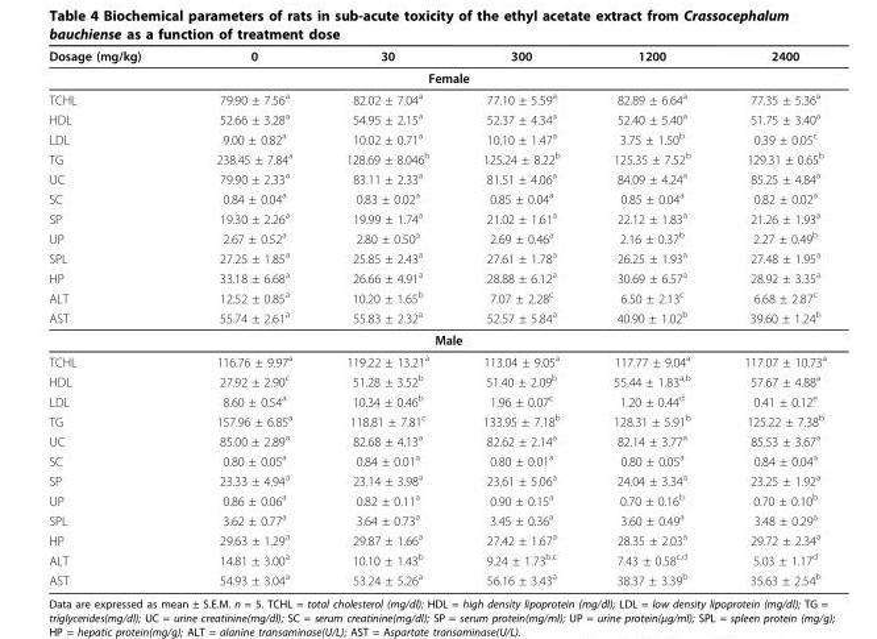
<table><thead><tr><td>Dosage (mg/kg)</td><td>0</td><td>30</td><td>300</td><td>1200</td><td>2400</td></tr></thead><tbody><tr><td colspan="6">Female</td></tr><tr><td>TCHL</td><td>79.90 ± 7.56<sup>a</sup></td><td>82.02 ± 7.04<sup>a</sup></td><td>77.10 ± 5.59<sup>a</sup></td><td>82.89 ± 6.64<sup>a</sup></td><td>77.35 ± 5.36<sup>a</sup></td></tr><tr><td>HDL</td><td>52.66 ± 3.28<sup>a</sup></td><td>54.95 ± 2.15<sup>a</sup></td><td>52.37 ± 4.34<sup>a</sup></td><td>52.40 ± 5.40<sup>a</sup></td><td>51.75 ± 3.40<sup>a</sup></td></tr><tr><td>LDL</td><td>9.00 ± 0.82<sup>a</sup></td><td>10.02 ± 0.71<sup>a</sup></td><td>10.10 ± 1.47<sup>a</sup></td><td>3.75 ± 1.50<sup>b</sup></td><td>0.39 ± 0.05<sup>c</sup></td></tr><tr><td>TG</td><td>238.45 ± 7.84<sup>a</sup></td><td>128.69 ± 8.046<sup>b</sup></td><td>125.24 ± 8.22<sup>b</sup></td><td>125.35 ± 7.52<sup>b</sup></td><td>129.31 ± 0.65<sup>b</sup></td></tr><tr><td>UC</td><td>79.90 ± 2.33<sup>a</sup></td><td>83.11 ± 2.33<sup>a</sup></td><td>81.51 ± 4.06<sup>a</sup></td><td>84.09 ± 4.24<sup>a</sup></td><td>85.25 ± 4.84<sup>a</sup></td></tr><tr><td>SC</td><td>0.84 ± 0.04<sup>a</sup></td><td>0.83 ± 0.02<sup>a</sup></td><td>0.85 ± 0.04<sup>a</sup></td><td>0.85 ± 0.04<sup>a</sup></td><td>0.82 ± 0.02<sup>a</sup></td></tr><tr><td>SP</td><td>19.30 ± 2.26<sup>a</sup></td><td>19.99 ± 1.74<sup>a</sup></td><td>21.02 ± 1.61<sup>a</sup></td><td>22.12 ± 1.83<sup>a</sup></td><td>21.26 ± 1.93<sup>a</sup></td></tr><tr><td>UP</td><td>2.67 ± 0.52<sup>a</sup></td><td>2.80 ± 0.50<sup>a</sup></td><td>2.69 ± 0.46<sup>a</sup></td><td>2.16 ± 0.37<sup>b</sup></td><td>2.27 ± 0.49<sup>b</sup></td></tr><tr><td>SPL</td><td>27.25 ± 1.85<sup>a</sup></td><td>25.85 ± 2.43<sup>a</sup></td><td>27.61 ± 1.78<sup>a</sup></td><td>26.25 ± 1.93<sup>a</sup></td><td>27.48 ± 1.95<sup>a</sup></td></tr><tr><td>HP</td><td>33.18 ± 6.68<sup>a</sup></td><td>26.66 ± 4.91<sup>a</sup></td><td>28.88 ± 6.12<sup>a</sup></td><td>30.69 ± 6.57<sup>a</sup></td><td>28.92 ± 3.35<sup>a</sup></td></tr><tr><td>ALT</td><td>12.52 ± 0.85<sup>a</sup></td><td>10.20 ± 1.65<sup>b</sup></td><td>7.07 ± 2.28<sup>c</sup></td><td>6.50 ± 2.13<sup>c</sup></td><td>6.68 ± 2.87<sup>c</sup></td></tr><tr><td>AST</td><td>55.74 ± 2.61<sup>a</sup></td><td>55.83 ± 2.32<sup>a</sup></td><td>52.57 ± 5.84<sup>a</sup></td><td>40.90 ± 1.02<sup>b</sup></td><td>39.60 ± 1.24<sup>b</sup></td></tr><tr><td colspan="6">Male</td></tr><tr><td>TCHL</td><td>116.76 ± 9.97<sup>a</sup></td><td>119.22 ± 13.21<sup>a</sup></td><td>113.04 ± 9.05<sup>a</sup></td><td>117.77 ± 9.04<sup>a</sup></td><td>117.07 ± 10.73<sup>a</sup></td></tr><tr><td>HDL</td><td>27.92 ± 2.90<sup>c</sup></td><td>51.28 ± 3.52<sup>b</sup></td><td>51.40 ± 2.09<sup>b</sup></td><td>55.44 ± 1.83<sup>a,b</sup></td><td>57.67 ± 4.88<sup>a</sup></td></tr><tr><td>LDL</td><td>8.60 ± 0.54<sup>a</sup></td><td>10.34 ± 0.46<sup>b</sup></td><td>1.96 ± 0.07<sup>c</sup></td><td>1.20 ± 0.44<sup>d</sup></td><td>0.41 ± 0.12<sup>e</sup></td></tr><tr><td>TG</td><td>157.96 ± 6.85<sup>a</sup></td><td>118.81 ± 7.81<sup>c</sup></td><td>133.95 ± 7.18<sup>b</sup></td><td>128.31 ± 5.91<sup>b</sup></td><td>125.22 ± 7.38<sup>b</sup></td></tr><tr><td>UC</td><td>85.00 ± 2.89<sup>a</sup></td><td>82.68 ± 4.13<sup>a</sup></td><td>82.62 ± 2.14<sup>a</sup></td><td>82.14 ± 3.77<sup>a</sup></td><td>85.53 ± 3.67<sup>a</sup></td></tr><tr><td>SC</td><td>0.80 ± 0.05<sup>a</sup></td><td>0.84 ± 0.01<sup>a</sup></td><td>0.80 ± 0.01<sup>a</sup></td><td>0.80 ± 0.05<sup>a</sup></td><td>0.84 ± 0.04<sup>a</sup></td></tr><tr><td>SP</td><td>23.33 ± 4.94<sup>a</sup></td><td>23.14 ± 3.98<sup>a</sup></td><td>23.61 ± 5.06<sup>a</sup></td><td>24.04 ± 3.34<sup>a</sup></td><td>23.25 ± 1.92<sup>a</sup></td></tr><tr><td>UP</td><td>0.86 ± 0.06<sup>a</sup></td><td>0.82 ± 0.11<sup>a</sup></td><td>0.90 ± 0.15<sup>a</sup></td><td>0.70 ± 0.16<sup>b</sup></td><td>0.70 ± 0.10<sup>b</sup></td></tr><tr><td>SPL</td><td>3.62 ± 0.77<sup>a</sup></td><td>3.64 ± 0.73<sup>a</sup></td><td>3.45 ± 0.36<sup>a</sup></td><td>3.60 ± 0.49<sup>a</sup></td><td>3.48 ± 0.29<sup>a</sup></td></tr><tr><td>HP</td><td>29.63 ± 1.29<sup>a</sup></td><td>29.87 ± 1.66<sup>a</sup></td><td>27.42 ± 1.67<sup>a</sup></td><td>28.35 ± 2.03<sup>a</sup></td><td>29.72 ± 2.34<sup>a</sup></td></tr><tr><td>ALT</td><td>14.81 ± 3.00<sup>a</sup></td><td>10.10 ± 1.43<sup>b</sup></td><td>9.24 ± 1.73<sup>b,c</sup></td><td>7.43 ± 0.58<sup>c,d</sup></td><td>5.03 ± 1.17<sup>d</sup></td></tr><tr><td>AST</td><td>54.93 ± 3.04<sup>a</sup></td><td>53.24 ± 5.26<sup>a</sup></td><td>56.16 ± 3.43<sup>a</sup></td><td>38.37 ± 3.39<sup>b</sup></td><td>35.63 ± 2.54<sup>b</sup></td></tr></tbody></table>